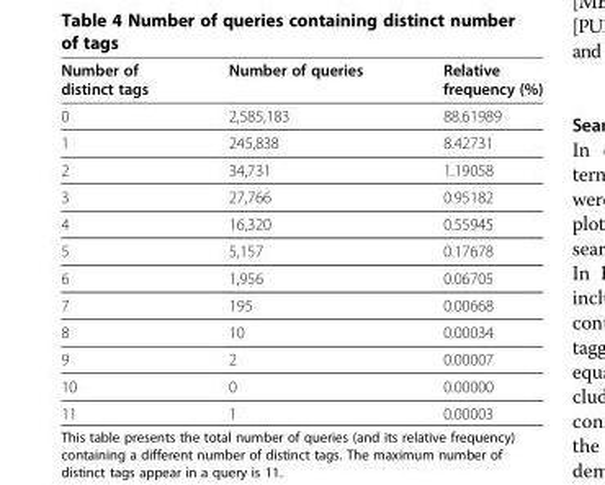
<table><thead><tr><td>Number of distinct tags</td><td>Number of queries</td><td>Relative frequency (%)</td></tr></thead><tbody><tr><td>0</td><td>2,585,183</td><td>88.61989</td></tr><tr><td>1</td><td>245,838</td><td>8.42731</td></tr><tr><td>2</td><td>34,731</td><td>1.19058</td></tr><tr><td>3</td><td>27,766</td><td>0.95182</td></tr><tr><td>4</td><td>16,320</td><td>0.55945</td></tr><tr><td>5</td><td>5,157</td><td>0.17678</td></tr><tr><td>6</td><td>1,956</td><td>0.06705</td></tr><tr><td>7</td><td>195</td><td>0.00668</td></tr><tr><td>8</td><td>10</td><td>0.00034</td></tr><tr><td>9</td><td>2</td><td>0.00007</td></tr><tr><td>10</td><td>0</td><td>0.00000</td></tr><tr><td>11</td><td>1</td><td>0.00003</td></tr></tbody></table>